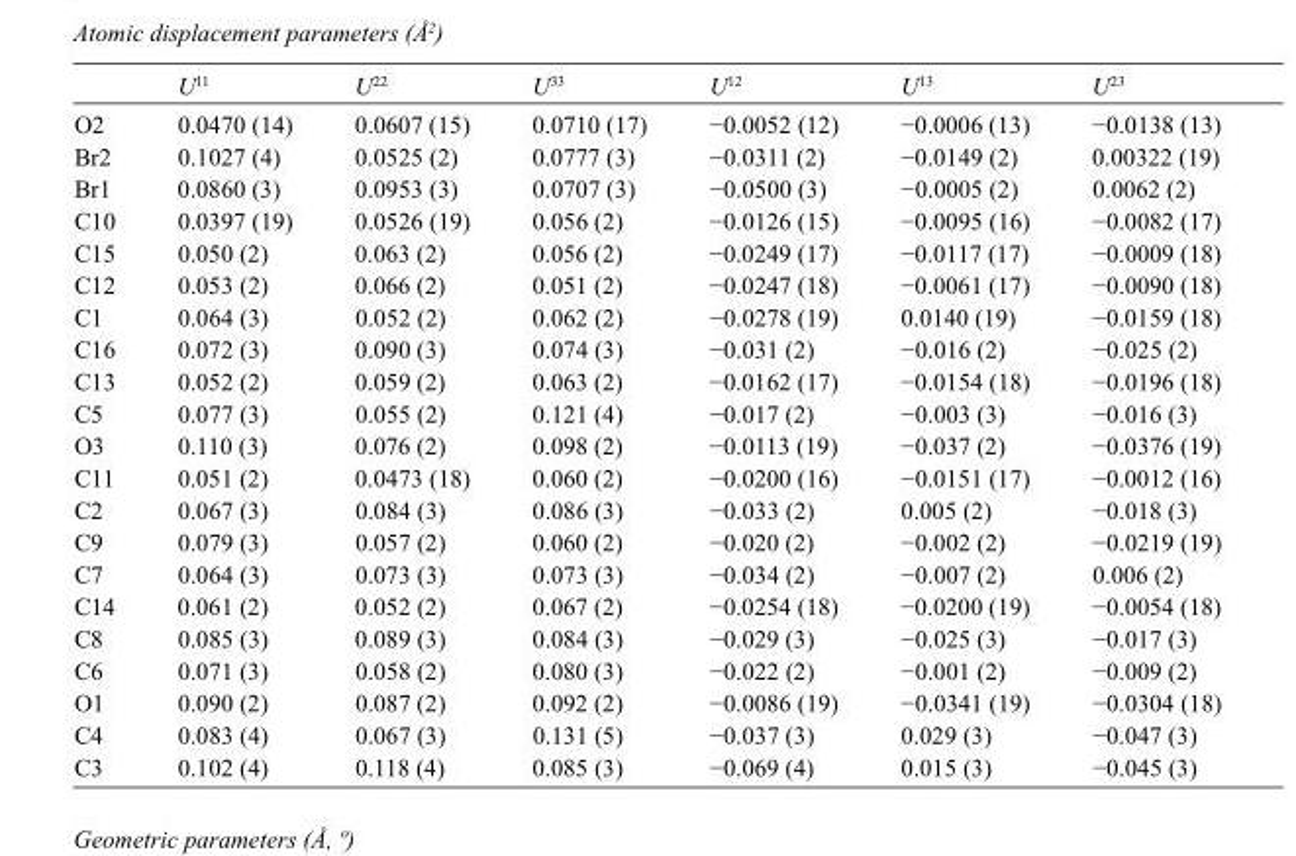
<table><thead><tr><td></td><td>U<sup>11</sup></td><td>U<sup>22</sup></td><td>U<sup>33</sup></td><td>U<sup>12</sup></td><td>U<sup>13</sup></td><td>U<sup>23</sup></td></tr></thead><tbody><tr><td>O2</td><td>0.0470 (14)</td><td>0.0607 (15)</td><td>0.0710 (17)</td><td>−0.0052 (12)</td><td>−0.0006 (13)</td><td>−0.0138 (13)</td></tr><tr><td>Br2</td><td>0.1027 (4)</td><td>0.0525 (2)</td><td>0.0777 (3)</td><td>−0.0311 (2)</td><td>−0.0149 (2)</td><td>0.00322 (19)</td></tr><tr><td>Br1</td><td>0.0860 (3)</td><td>0.0953 (3)</td><td>0.0707 (3)</td><td>−0.0500 (3)</td><td>−0.0005 (2)</td><td>0.0062 (2)</td></tr><tr><td>C10</td><td>0.0397 (19)</td><td>0.0526 (19)</td><td>0.056 (2)</td><td>−0.0126 (15)</td><td>−0.0095 (16)</td><td>−0.0082 (17)</td></tr><tr><td>C15</td><td>0.050 (2)</td><td>0.063 (2)</td><td>0.056 (2)</td><td>−0.0249 (17)</td><td>−0.0117 (17)</td><td>−0.0009 (18)</td></tr><tr><td>C12</td><td>0.053 (2)</td><td>0.066 (2)</td><td>0.051 (2)</td><td>−0.0247 (18)</td><td>−0.0061 (17)</td><td>−0.0090 (18)</td></tr><tr><td>C1</td><td>0.064 (3)</td><td>0.052 (2)</td><td>0.062 (2)</td><td>−0.0278 (19)</td><td>0.0140 (19)</td><td>−0.0159 (18)</td></tr><tr><td>C16</td><td>0.072 (3)</td><td>0.090 (3)</td><td>0.074 (3)</td><td>−0.031 (2)</td><td>−0.016 (2)</td><td>−0.025 (2)</td></tr><tr><td>C13</td><td>0.052 (2)</td><td>0.059 (2)</td><td>0.063 (2)</td><td>−0.0162 (17)</td><td>−0.0154 (18)</td><td>−0.0196 (18)</td></tr><tr><td>C5</td><td>0.077 (3)</td><td>0.055 (2)</td><td>0.121 (4)</td><td>−0.017 (2)</td><td>−0.003 (3)</td><td>−0.016 (3)</td></tr><tr><td>O3</td><td>0.110 (3)</td><td>0.076 (2)</td><td>0.098 (2)</td><td>−0.0113 (19)</td><td>−0.037 (2)</td><td>−0.0376 (19)</td></tr><tr><td>C11</td><td>0.051 (2)</td><td>0.0473 (18)</td><td>0.060 (2)</td><td>−0.0200 (16)</td><td>−0.0151 (17)</td><td>−0.0012 (16)</td></tr><tr><td>C2</td><td>0.067 (3)</td><td>0.084 (3)</td><td>0.086 (3)</td><td>−0.033 (2)</td><td>0.005 (2)</td><td>−0.018 (3)</td></tr><tr><td>C9</td><td>0.079 (3)</td><td>0.057 (2)</td><td>0.060 (2)</td><td>−0.020 (2)</td><td>−0.002 (2)</td><td>−0.0219 (19)</td></tr><tr><td>C7</td><td>0.064 (3)</td><td>0.073 (3)</td><td>0.073 (3)</td><td>−0.034 (2)</td><td>−0.007 (2)</td><td>0.006 (2)</td></tr><tr><td>C14</td><td>0.061 (2)</td><td>0.052 (2)</td><td>0.067 (2)</td><td>−0.0254 (18)</td><td>−0.0200 (19)</td><td>−0.0054 (18)</td></tr><tr><td>C8</td><td>0.085 (3)</td><td>0.089 (3)</td><td>0.084 (3)</td><td>−0.029 (3)</td><td>−0.025 (3)</td><td>−0.017 (3)</td></tr><tr><td>C6</td><td>0.071 (3)</td><td>0.058 (2)</td><td>0.080 (3)</td><td>−0.022 (2)</td><td>−0.001 (2)</td><td>−0.009 (2)</td></tr><tr><td>O1</td><td>0.090 (2)</td><td>0.087 (2)</td><td>0.092 (2)</td><td>−0.0086 (19)</td><td>−0.0341 (19)</td><td>−0.0304 (18)</td></tr><tr><td>C4</td><td>0.083 (4)</td><td>0.067 (3)</td><td>0.131 (5)</td><td>−0.037 (3)</td><td>0.029 (3)</td><td>−0.047 (3)</td></tr><tr><td>C3</td><td>0.102 (4)</td><td>0.118 (4)</td><td>0.085 (3)</td><td>−0.069 (4)</td><td>0.015 (3)</td><td>−0.045 (3)</td></tr></tbody></table>